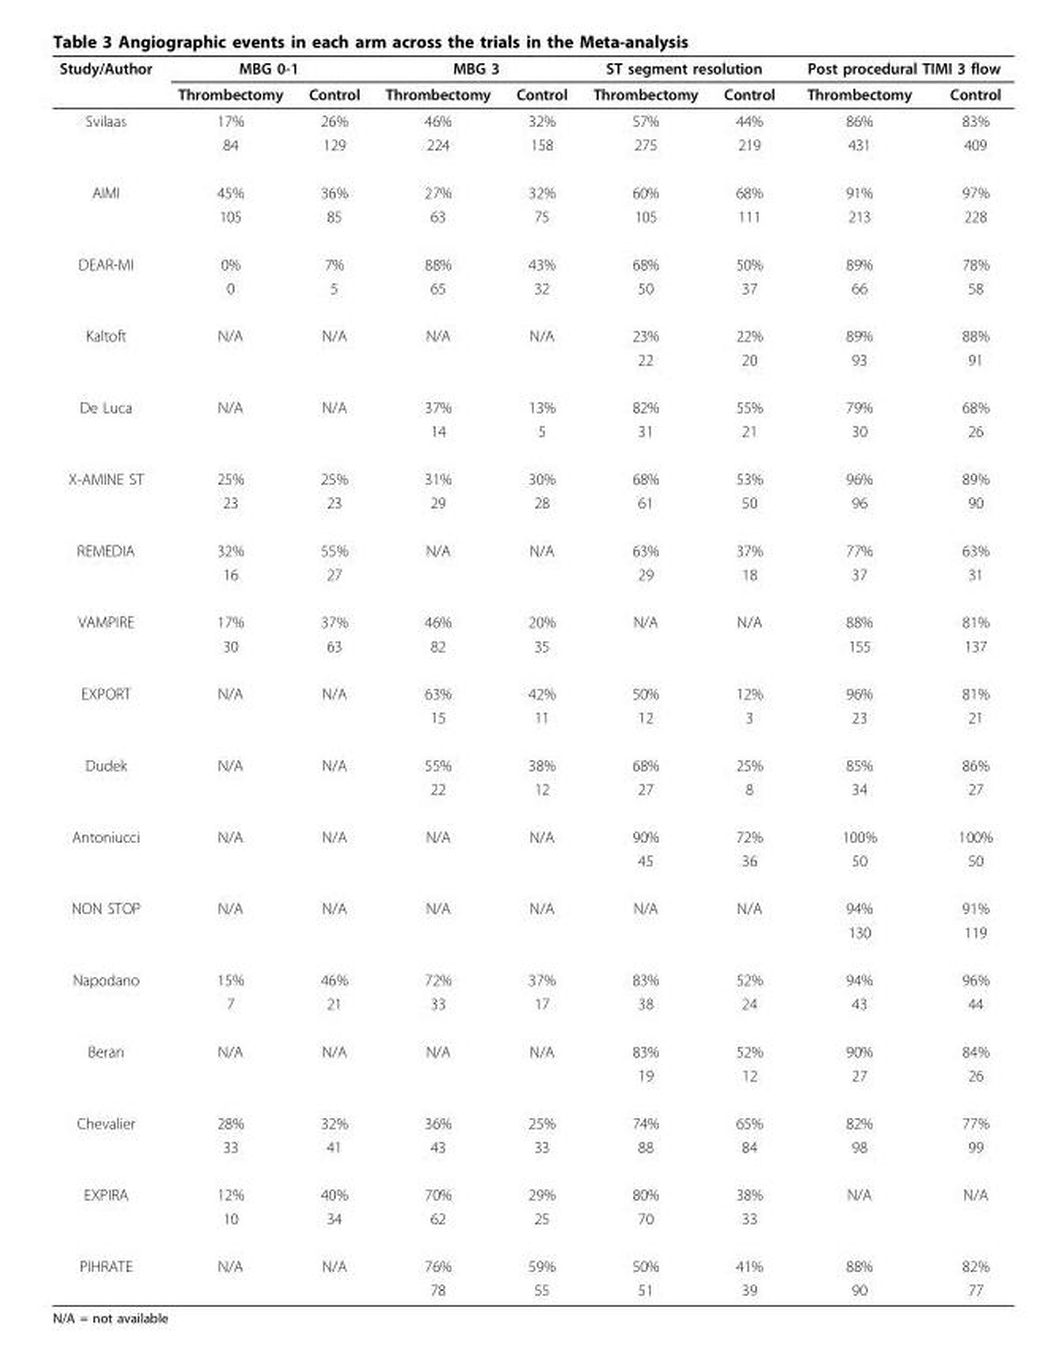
<table><thead><tr><td rowspan="2">Study/Author</td><td colspan="2">MBG 0-1</td><td colspan="2">MBG 3</td><td colspan="2">ST segment resolution</td><td colspan="2">Post procedural TIMI 3 flow</td></tr><tr><td>Thrombectomy</td><td>Control</td><td>Thrombectomy</td><td>Control</td><td>Thrombectomy</td><td>Control</td><td>Thrombectomy</td><td>Control</td></tr></thead><tbody><tr><td rowspan="2">Svilaas</td><td>17%</td><td>26%</td><td>46%</td><td>32%</td><td>57%</td><td>44%</td><td>86%</td><td>83%</td></tr><tr><td>84</td><td>129</td><td>224</td><td>158</td><td>275</td><td>219</td><td>431</td><td>409</td></tr><tr><td rowspan="2">AIMI</td><td>45%</td><td>36%</td><td>27%</td><td>32%</td><td>60%</td><td>68%</td><td>91%</td><td>97%</td></tr><tr><td>105</td><td>85</td><td>63</td><td>75</td><td>105</td><td>111</td><td>213</td><td>228</td></tr><tr><td rowspan="2">DEAR-MI</td><td>0%</td><td>7%</td><td>88%</td><td>43%</td><td>68%</td><td>50%</td><td>89%</td><td>78%</td></tr><tr><td>0</td><td>5</td><td>65</td><td>32</td><td>50</td><td>37</td><td>66</td><td>58</td></tr><tr><td rowspan="2">Kaltoft</td><td>N/A</td><td>N/A</td><td>N/A</td><td>N/A</td><td>23%</td><td>22%</td><td>89%</td><td>88%</td></tr><tr><td></td><td></td><td></td><td></td><td>22</td><td>20</td><td>93</td><td>91</td></tr><tr><td rowspan="2">De Luca</td><td>N/A</td><td>N/A</td><td>37%</td><td>13%</td><td>82%</td><td>55%</td><td>79%</td><td>68%</td></tr><tr><td></td><td></td><td>14</td><td>5</td><td>31</td><td>21</td><td>30</td><td>26</td></tr><tr><td rowspan="2">X-AMINE ST</td><td>25%</td><td>25%</td><td>31%</td><td>30%</td><td>68%</td><td>53%</td><td>96%</td><td>89%</td></tr><tr><td>23</td><td>23</td><td>29</td><td>28</td><td>61</td><td>50</td><td>96</td><td>90</td></tr><tr><td rowspan="2">REMEDIA</td><td>32%</td><td>55%</td><td>N/A</td><td>N/A</td><td>63%</td><td>37%</td><td>77%</td><td>63%</td></tr><tr><td>16</td><td>27</td><td></td><td></td><td>29</td><td>18</td><td>37</td><td>31</td></tr><tr><td rowspan="2">VAMPIRE</td><td>17%</td><td>37%</td><td>46%</td><td>20%</td><td>N/A</td><td>N/A</td><td>88%</td><td>81%</td></tr><tr><td>30</td><td>63</td><td>82</td><td>35</td><td></td><td></td><td>155</td><td>137</td></tr><tr><td rowspan="2">EXPORT</td><td>N/A</td><td>N/A</td><td>63%</td><td>42%</td><td>50%</td><td>12%</td><td>96%</td><td>81%</td></tr><tr><td></td><td></td><td>15</td><td>11</td><td>12</td><td>3</td><td>23</td><td>21</td></tr><tr><td rowspan="2">Dudek</td><td>N/A</td><td>N/A</td><td>55%</td><td>38%</td><td>68%</td><td>25%</td><td>85%</td><td>86%</td></tr><tr><td></td><td></td><td>22</td><td>12</td><td>27</td><td>8</td><td>34</td><td>27</td></tr><tr><td rowspan="2">Antoniucci</td><td>N/A</td><td>N/A</td><td>N/A</td><td>N/A</td><td>90%</td><td>72%</td><td>100%</td><td>100%</td></tr><tr><td></td><td></td><td></td><td></td><td>45</td><td>36</td><td>50</td><td>50</td></tr><tr><td rowspan="2">NON STOP</td><td>N/A</td><td>N/A</td><td>N/A</td><td>N/A</td><td>N/A</td><td>N/A</td><td>94%</td><td>91%</td></tr><tr><td></td><td></td><td></td><td></td><td></td><td></td><td>130</td><td>119</td></tr><tr><td rowspan="2">Napodano</td><td>15%</td><td>46%</td><td>72%</td><td>37%</td><td>83%</td><td>52%</td><td>94%</td><td>96%</td></tr><tr><td>7</td><td>21</td><td>33</td><td>17</td><td>38</td><td>24</td><td>43</td><td>44</td></tr><tr><td rowspan="2">Beran</td><td>N/A</td><td>N/A</td><td>N/A</td><td>N/A</td><td>83%</td><td>52%</td><td>90%</td><td>84%</td></tr><tr><td></td><td></td><td></td><td></td><td>19</td><td>12</td><td>27</td><td>26</td></tr><tr><td rowspan="2">Chevalier</td><td>28%</td><td>32%</td><td>36%</td><td>25%</td><td>74%</td><td>65%</td><td>82%</td><td>77%</td></tr><tr><td>33</td><td>41</td><td>43</td><td>33</td><td>88</td><td>84</td><td>98</td><td>99</td></tr><tr><td rowspan="2">EXPIRA</td><td>12%</td><td>40%</td><td>70%</td><td>29%</td><td>80%</td><td>38%</td><td>N/A</td><td>N/A</td></tr><tr><td>10</td><td>34</td><td>62</td><td>25</td><td>70</td><td>33</td><td></td><td></td></tr><tr><td rowspan="2">PIHRATE</td><td>N/A</td><td>N/A</td><td>76%</td><td>59%</td><td>50%</td><td>41%</td><td>88%</td><td>82%</td></tr><tr><td></td><td></td><td>78</td><td>55</td><td>51</td><td>39</td><td>90</td><td>77</td></tr></tbody></table>